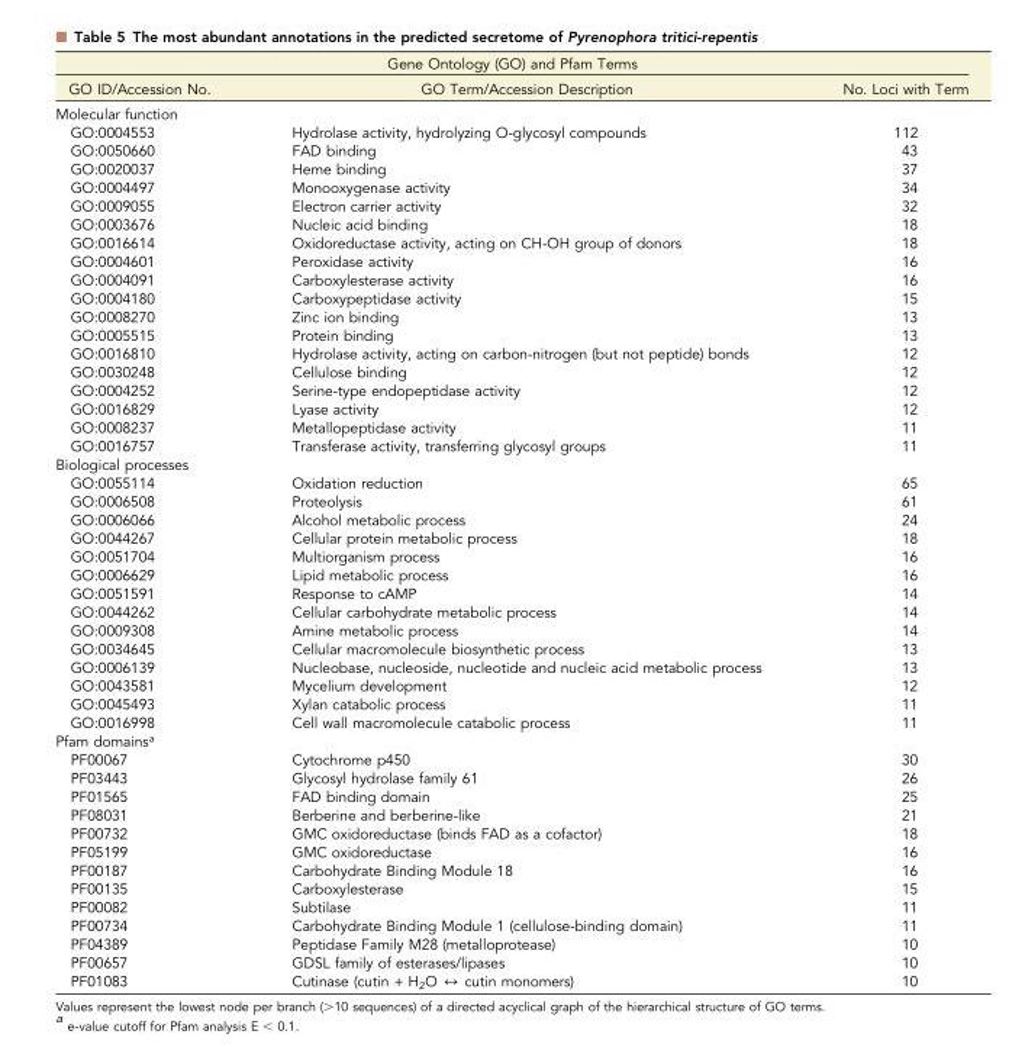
<table><thead><tr><td colspan="3">Gene Ontology (GO) and Pfam Terms</td></tr><tr><td>GO ID/Accession No.</td><td>GO Term/Accession Description</td><td>No. Loci with Term</td></tr></thead><tbody><tr><td colspan="3">Molecular function</td></tr><tr><td>GO:0004553</td><td>Hydrolase activity, hydrolyzing O-glycosyl compounds</td><td>112</td></tr><tr><td>GO:0050660</td><td>FAD binding</td><td>43</td></tr><tr><td>GO:0020037</td><td>Heme binding</td><td>37</td></tr><tr><td>GO:0004497</td><td>Monooxygenase activity</td><td>34</td></tr><tr><td>GO:0009055</td><td>Electron carrier activity</td><td>32</td></tr><tr><td>GO:0003676</td><td>Nucleic acid binding</td><td>18</td></tr><tr><td>GO:0016614</td><td>Oxidoreductase activity, acting on CH-OH group of donors</td><td>18</td></tr><tr><td>GO:0004601</td><td>Peroxidase activity</td><td>16</td></tr><tr><td>GO:0004091</td><td>Carboxylesterase activity</td><td>16</td></tr><tr><td>GO:0004180</td><td>Carboxypeptidase activity</td><td>15</td></tr><tr><td>GO:0008270</td><td>Zinc ion binding</td><td>13</td></tr><tr><td>GO:0005515</td><td>Protein binding</td><td>13</td></tr><tr><td>GO:0016810</td><td>Hydrolase activity, acting on carbon-nitrogen (but not peptide) bonds</td><td>12</td></tr><tr><td>GO:0030248</td><td>Cellulose binding</td><td>12</td></tr><tr><td>GO:0004252</td><td>Serine-type endopeptidase activity</td><td>12</td></tr><tr><td>GO:0016829</td><td>Lyase activity</td><td>12</td></tr><tr><td>GO:0008237</td><td>Metallopeptidase activity</td><td>11</td></tr><tr><td>GO:0016757</td><td>Transferase activity, transferring glycosyl groups</td><td>11</td></tr><tr><td colspan="3">Biological processes</td></tr><tr><td>GO:0055114</td><td>Oxidation reduction</td><td>65</td></tr><tr><td>GO:0006508</td><td>Proteolysis</td><td>61</td></tr><tr><td>GO:0006066</td><td>Alcohol metabolic process</td><td>24</td></tr><tr><td>GO:0044267</td><td>Cellular protein metabolic process</td><td>18</td></tr><tr><td>GO:0051704</td><td>Multiorganism process</td><td>16</td></tr><tr><td>GO:0006629</td><td>Lipid metabolic process</td><td>16</td></tr><tr><td>GO:0051591</td><td>Response to cAMP</td><td>14</td></tr><tr><td>GO:0044262</td><td>Cellular carbohydrate metabolic process</td><td>14</td></tr><tr><td>GO:0009308</td><td>Amine metabolic process</td><td>14</td></tr><tr><td>GO:0034645</td><td>Cellular macromolecule biosynthetic process</td><td>13</td></tr><tr><td>GO:0006139</td><td>Nucleobase, nucleoside, nucleotide and nucleic acid metabolic process</td><td>13</td></tr><tr><td>GO:0043581</td><td>Mycelium development</td><td>12</td></tr><tr><td>GO:0045493</td><td>Xylan catabolic process</td><td>11</td></tr><tr><td>GO:0016998</td><td>Cell wall macromolecule catabolic process</td><td>11</td></tr><tr><td colspan="3">Pfam domains<sup>a</sup></td></tr><tr><td>PF00067</td><td>Cytochrome p450</td><td>30</td></tr><tr><td>PF03443</td><td>Glycosyl hydrolase family 61</td><td>26</td></tr><tr><td>PF01565</td><td>FAD binding domain</td><td>25</td></tr><tr><td>PF08031</td><td>Berberine and berberine-like</td><td>21</td></tr><tr><td>PF00732</td><td>GMC oxidoreductase (binds FAD as a cofactor)</td><td>18</td></tr><tr><td>PF05199</td><td>GMC oxidoreductase</td><td>16</td></tr><tr><td>PF00187</td><td>Carbohydrate Binding Module 18</td><td>16</td></tr><tr><td>PF00135</td><td>Carboxylesterase</td><td>15</td></tr><tr><td>PF00082</td><td>Subtilase</td><td>11</td></tr><tr><td>PF00734</td><td>Carbohydrate Binding Module 1 (cellulose-binding domain)</td><td>11</td></tr><tr><td>PF04389</td><td>Peptidase Family M28 (metalloprotease)</td><td>10</td></tr><tr><td>PF00657</td><td>GDSL family of esterases/lipases</td><td>10</td></tr><tr><td>PF01083</td><td>Cutinase (cutin + H<sub>2</sub>O ↔ cutin monomers)</td><td>10</td></tr></tbody></table>